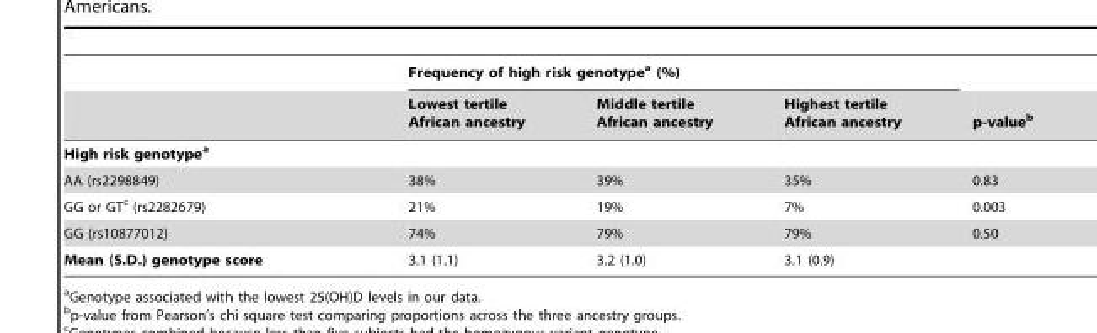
<table><thead><tr><td rowspan="2"></td><td colspan="3">Frequency of high risk genotype<sup>a</sup> (%)</td><td rowspan="2">p-value<sup>b</sup></td></tr><tr><td>Lowest tertile African ancestry</td><td>Middle tertile African ancestry</td><td>Highest tertile African ancestry</td></tr></thead><tbody><tr><td colspan="5">High risk genotypea</td></tr><tr><td>AA (rs2298849)</td><td>38%</td><td>39%</td><td>35%</td><td>0.83</td></tr><tr><td>GG or GT<sup>c</sup> (rs2282679)</td><td>21%</td><td>19%</td><td>7%</td><td>0.003</td></tr><tr><td>GG (rs10877012)</td><td>74%</td><td>79%</td><td>79%</td><td>0.50</td></tr><tr><td>Mean (S.D.) genotype score</td><td>3.1 (1.1)</td><td>3.2 (1.0)</td><td>3.1 (0.9)</td><td></td></tr></tbody></table>